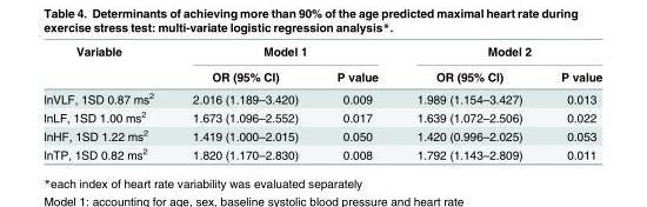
<table><thead><tr><td rowspan="2">Variable</td><td colspan="2">Model 1</td><td colspan="2">Model 2</td></tr><tr><td>OR (95% CI)</td><td>P value</td><td>OR (95% CI)</td><td>P value</td></tr></thead><tbody><tr><td>lnVLF, 1SD 0.87 ms<sup>2</sup></td><td>2.016 (1.189–3.420)</td><td>0.009</td><td>1.989 (1.154–3.427)</td><td>0.013</td></tr><tr><td>lnLF, 1SD 1.00 ms<sup>2</sup></td><td>1.673 (1.096–2.552)</td><td>0.017</td><td>1.639 (1.072–2.506)</td><td>0.022</td></tr><tr><td>lnHF, 1SD 1.22 ms<sup>2</sup></td><td>1.419 (1.000–2.015)</td><td>0.050</td><td>1.420 (0.996–2.025)</td><td>0.053</td></tr><tr><td>lnTP, 1SD 0.82 ms<sup>2</sup></td><td>1.820 (1.170–2.830)</td><td>0.008</td><td>1.792 (1.143–2.809)</td><td>0.011</td></tr></tbody></table>